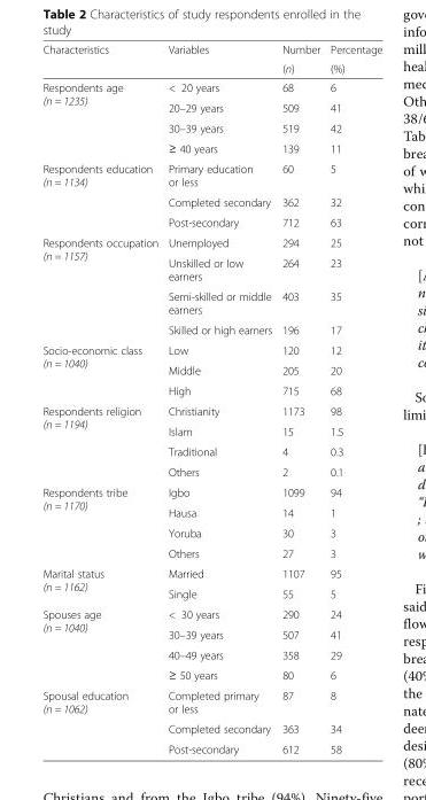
<table><thead><tr><td rowspan="2">Characteristics</td><td rowspan="2">Variables</td><td rowspan="2">Number (n)</td><td rowspan="2">Percentage (%)</td></tr><tr></tr></thead><tbody><tr><td rowspan="4">Respondents age (n = 1235)</td><td>&lt; 20 years</td><td>68</td><td>6</td></tr><tr><td>20–29 years</td><td>509</td><td>41</td></tr><tr><td>30–39 years</td><td>519</td><td>42</td></tr><tr><td>≥ 40 years</td><td>139</td><td>11</td></tr><tr><td rowspan="3">Respondents education (n = 1134)</td><td>Primary education or less</td><td>60</td><td>5</td></tr><tr><td>Completed secondary</td><td>362</td><td>32</td></tr><tr><td>Post-secondary</td><td>712</td><td>63</td></tr><tr><td rowspan="4">Respondents occupation (n = 1157)</td><td>Unemployed</td><td>294</td><td>25</td></tr><tr><td>Unskilled or low earners</td><td>264</td><td>23</td></tr><tr><td>Semi-skilled or middle earners</td><td>403</td><td>35</td></tr><tr><td>Skilled or high earners</td><td>196</td><td>17</td></tr><tr><td rowspan="3">Socio-economic class (n = 1040)</td><td>Low</td><td>120</td><td>12</td></tr><tr><td>Middle</td><td>205</td><td>20</td></tr><tr><td>High</td><td>715</td><td>68</td></tr><tr><td rowspan="4">Respondents religion (n = 1194)</td><td>Christianity</td><td>1173</td><td>98</td></tr><tr><td>Islam</td><td>15</td><td>1.5</td></tr><tr><td>Traditional</td><td>4</td><td>0.3</td></tr><tr><td>Others</td><td>2</td><td>0.1</td></tr><tr><td rowspan="4">Respondents tribe (n = 1170)</td><td>Igbo</td><td>1099</td><td>94</td></tr><tr><td>Hausa</td><td>14</td><td>1</td></tr><tr><td>Yoruba</td><td>30</td><td>3</td></tr><tr><td>Others</td><td>27</td><td>3</td></tr><tr><td rowspan="2">Marital status (n = 1162)</td><td>Married</td><td>1107</td><td>95</td></tr><tr><td>Single</td><td>55</td><td>5</td></tr><tr><td rowspan="4">Spouses age (n = 1040)</td><td>&lt; 30 years</td><td>290</td><td>24</td></tr><tr><td>30–39 years</td><td>507</td><td>41</td></tr><tr><td>40–49 years</td><td>358</td><td>29</td></tr><tr><td>≥ 50 years</td><td>80</td><td>6</td></tr><tr><td rowspan="3">Spousal education (n = 1062)</td><td>Completed primary or less</td><td>87</td><td>8</td></tr><tr><td>Completed secondary</td><td>363</td><td>34</td></tr><tr><td>Post-secondary</td><td>612</td><td>58</td></tr></tbody></table>